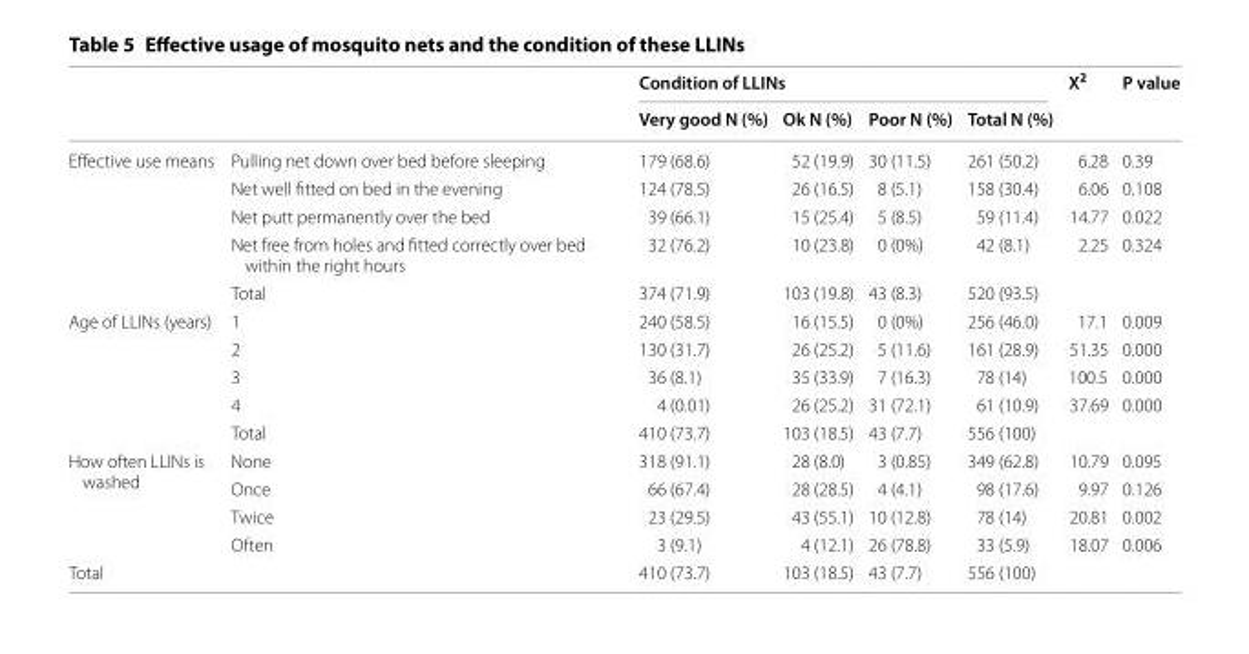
<table><thead><tr><td rowspan="2"></td><td rowspan="2"></td><td colspan="4">Condition of LLINs</td><td rowspan="2">X<sup>2</sup></td><td rowspan="2">P value</td></tr><tr><td>Very good N (%)</td><td>Ok N (%)</td><td>Poor N (%)</td><td>Total N (%)</td></tr></thead><tbody><tr><td rowspan="5">Effective use means</td><td>Pulling net down over bed before sleeping</td><td>179 (68.6)</td><td>52 (19.9)</td><td>30 (11.5)</td><td>261 (50.2)</td><td>6.28</td><td>0.39</td></tr><tr><td>Net well fitted on bed in the evening</td><td>124 (78.5)</td><td>26 (16.5)</td><td>8 (5.1)</td><td>158 (30.4)</td><td>6.06</td><td>0.108</td></tr><tr><td>Net putt permanently over the bed</td><td>39 (66.1)</td><td>15 (25.4)</td><td>5 (8.5)</td><td>59 (11.4)</td><td>14.77</td><td>0.022</td></tr><tr><td>Net free from holes and fitted correctly over bed within the right hours</td><td>32 (76.2)</td><td>10 (23.8)</td><td>0 (0%)</td><td>42 (8.1)</td><td>2.25</td><td>0.324</td></tr><tr><td>Total</td><td>374 (71.9)</td><td>103 (19.8)</td><td>43 (8.3)</td><td>520 (93.5)</td><td></td><td></td></tr><tr><td rowspan="5">Age of LLINs (years)</td><td>1</td><td>240 (58.5)</td><td>16 (15.5)</td><td>0 (0%)</td><td>256 (46.0)</td><td>17.1</td><td>0.009</td></tr><tr><td>2</td><td>130 (31.7)</td><td>26 (25.2)</td><td>5 (11.6)</td><td>161 (28.9)</td><td>51.35</td><td>0.000</td></tr><tr><td>3</td><td>36 (8.1)</td><td>35 (33.9)</td><td>7 (16.3)</td><td>78 (14)</td><td>100.5</td><td>0.000</td></tr><tr><td>4</td><td>4 (0.01)</td><td>26 (25.2)</td><td>31 (72.1)</td><td>61 (10.9)</td><td>37.69</td><td>0.000</td></tr><tr><td>Total</td><td>410 (73.7)</td><td>103 (18.5)</td><td>43 (7.7)</td><td>556 (100)</td><td></td><td></td></tr><tr><td rowspan="4">How often LLINs is washed</td><td>None</td><td>318 (91.1)</td><td>28 (8.0)</td><td>3 (0.85)</td><td>349 (62.8)</td><td>10.79</td><td>0.095</td></tr><tr><td>Once</td><td>66 (67.4)</td><td>28 (28.5)</td><td>4 (4.1)</td><td>98 (17.6)</td><td>9.97</td><td>0.126</td></tr><tr><td>Twice</td><td>23 (29.5)</td><td>43 (55.1)</td><td>10 (12.8)</td><td>78 (14)</td><td>20.81</td><td>0.002</td></tr><tr><td>Often</td><td>3 (9.1)</td><td>4 (12.1)</td><td>26 (78.8)</td><td>33 (5.9)</td><td>18.07</td><td>0.006</td></tr><tr><td>Total</td><td></td><td>410 (73.7)</td><td>103 (18.5)</td><td>43 (7.7)</td><td>556 (100)</td><td></td><td></td></tr></tbody></table>